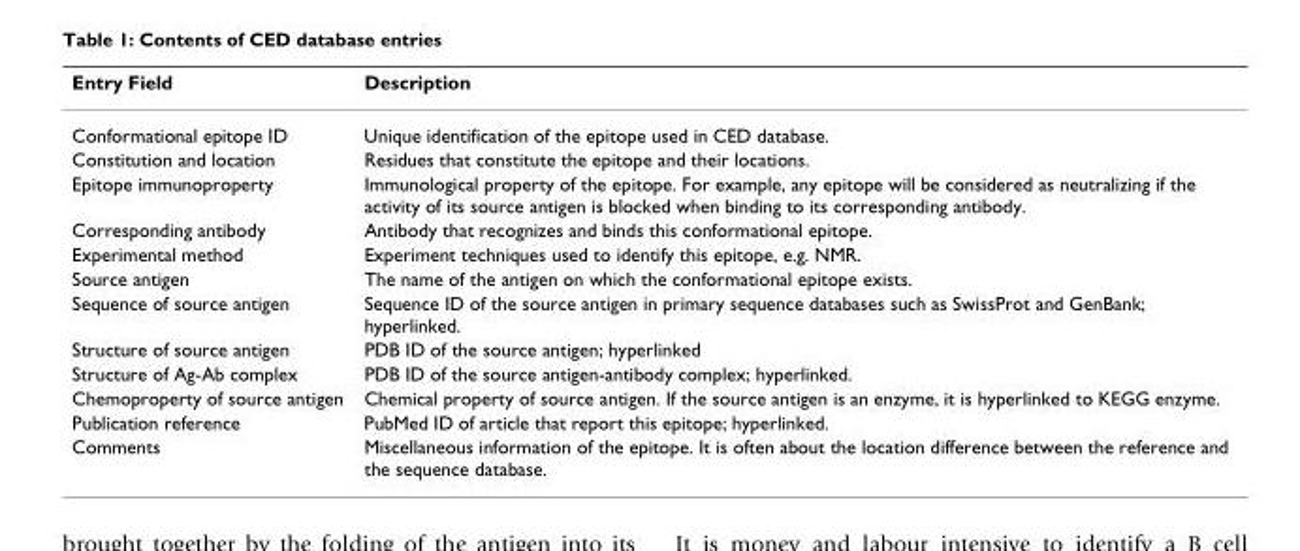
<table><thead><tr><td>Entry Field</td><td>Description</td></tr></thead><tbody><tr><td>Conformational epitope ID</td><td>Unique identification of the epitope used in CED database.</td></tr><tr><td>Constitution and location</td><td>Residues that constitute the epitope and their locations.</td></tr><tr><td>Epitope immunoproperty</td><td>Immunological property of the epitope. For example, any epitope will be considered as neutralizing if the activity of its source antigen is blocked when binding to its corresponding antibody.</td></tr><tr><td>Corresponding antibody</td><td>Antibody that recognizes and binds this conformational epitope.</td></tr><tr><td>Experimental method</td><td>Experiment techniques used to identify this epitope, e.g. NMR.</td></tr><tr><td>Source antigen</td><td>The name of the antigen on which the conformational epitope exists.</td></tr><tr><td>Sequence of source antigen</td><td>Sequence ID of the source antigen in primary sequence databases such as SwissProt and GenBank; hyperlinked.</td></tr><tr><td>Structure of source antigen</td><td>PDB ID of the source antigen; hyperlinked</td></tr><tr><td>Structure of Ag-Ab complex</td><td>PDB ID of the source antigen-antibody complex; hyperlinked.</td></tr><tr><td>Chemoproperty of source antigen</td><td>Chemical property of source antigen. If the source antigen is an enzyme, it is hyperlinked to KEGG enzyme.</td></tr><tr><td>Publication reference</td><td>PubMed ID of article that report this epitope; hyperlinked.</td></tr><tr><td>Comments</td><td>Miscellaneous information of the epitope. It is often about the location difference between the reference and the sequence database.</td></tr></tbody></table>